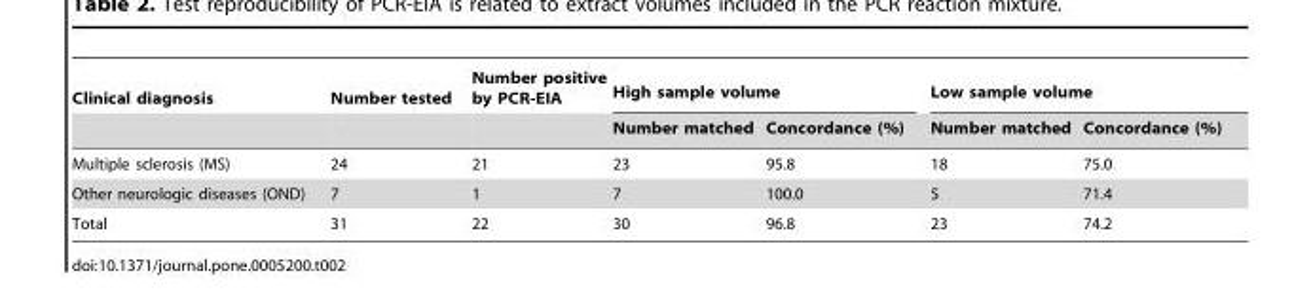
<table><thead><tr><td rowspan="2">Clinical diagnosis</td><td rowspan="2">Number tested</td><td rowspan="2">Number positive by PCR-EIA</td><td colspan="2">High sample volume</td><td colspan="2">Low sample volume</td></tr><tr><td>Number matched</td><td>Concordance (%)</td><td>Number matched</td><td>Concordance (%)</td></tr></thead><tbody><tr><td>Multiple sclerosis (MS)</td><td>24</td><td>21</td><td>23</td><td>95.8</td><td>18</td><td>75.0</td></tr><tr><td>Other neurologic diseases (OND)</td><td>7</td><td>1</td><td>7</td><td>100.0</td><td>5</td><td>71.4</td></tr><tr><td>Total</td><td>31</td><td>22</td><td>30</td><td>96.8</td><td>23</td><td>74.2</td></tr></tbody></table>